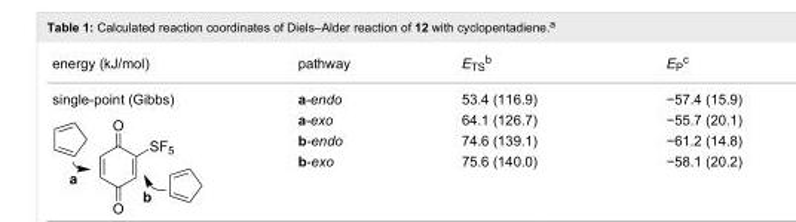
<table><tbody><tr><td>energy (kJ/mol)</td><td>pathway</td><td>E<sub>TS</sub><sup>b</sup></td><td>E<sub>P</sub><sup>c</sup></td></tr><tr><td rowspan="4">single-point (Gibbs)</td><td>a-endo</td><td>53.4 (116.9)</td><td>−57.4 (15.9)</td></tr><tr><td>a-exo</td><td>64.1 (126.7)</td><td>−55.7 (20.1)</td></tr><tr><td>b-endo</td><td>74.6 (139.1)</td><td>−61.2 (14.8)</td></tr><tr><td>b-exo</td><td>75.6 (140.0)</td><td>−58.1 (20.2)</td></tr></tbody></table>